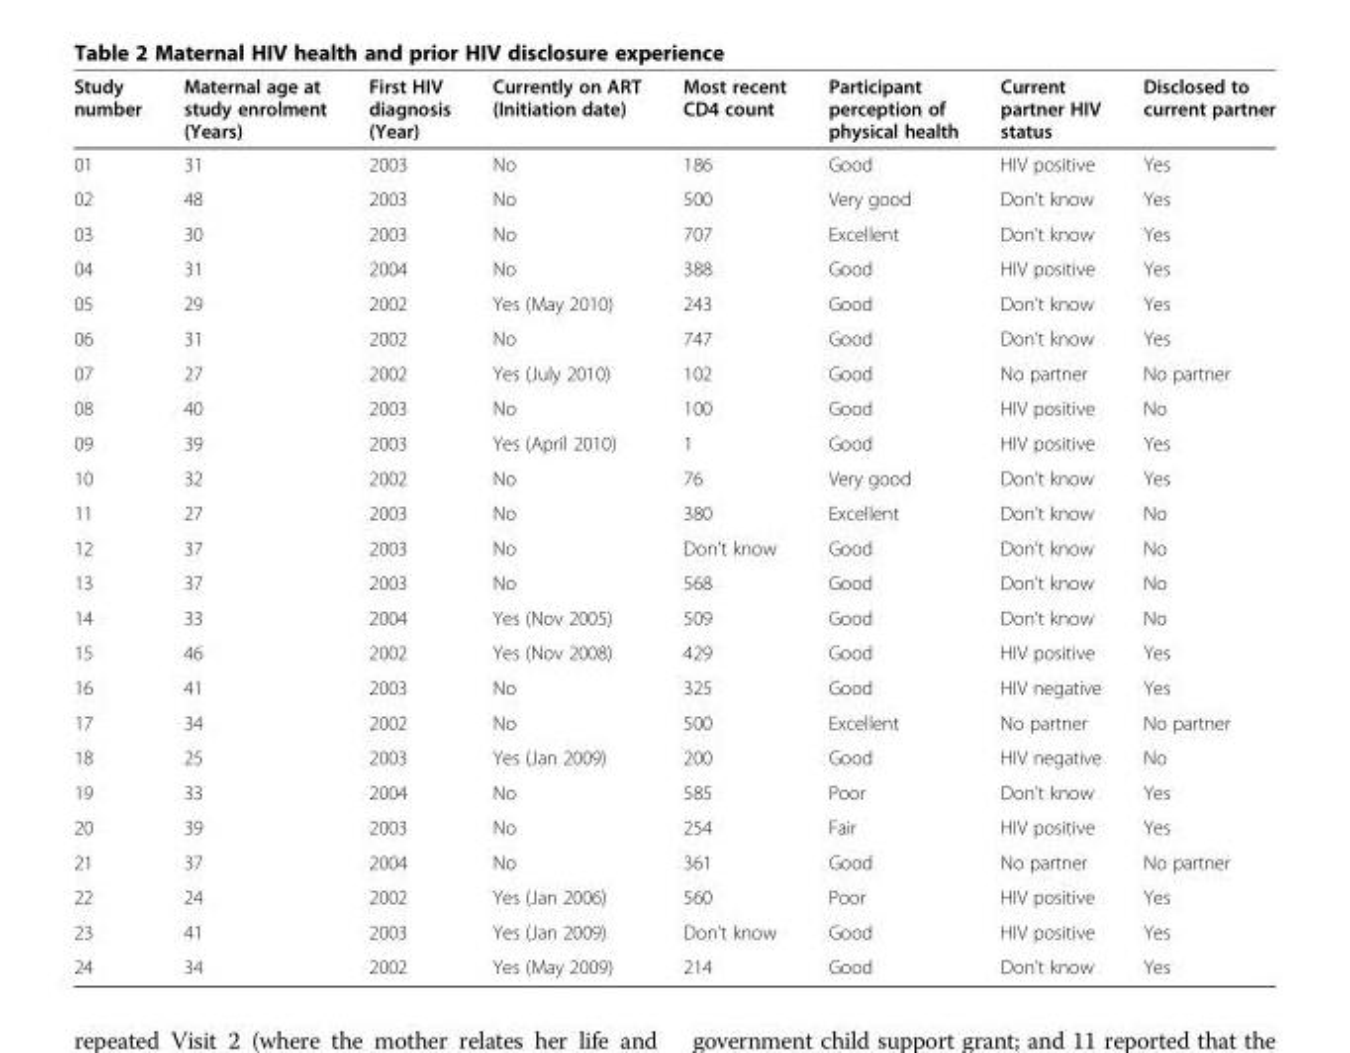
<table><thead><tr><td>Study number</td><td>Maternal age at study enrolment (Years)</td><td>First HIV diagnosis (Year)</td><td>Currently on ART (Initiation date)</td><td>Most recent CD4 count</td><td>Participant perception of physical health</td><td>Current partner HIV status</td><td>Disclosed to current partner</td></tr></thead><tbody><tr><td>01</td><td>31</td><td>2003</td><td>No</td><td>186</td><td>Good</td><td>HIV positive</td><td>Yes</td></tr><tr><td>02</td><td>48</td><td>2003</td><td>No</td><td>500</td><td>Very good</td><td>Don’t know</td><td>Yes</td></tr><tr><td>03</td><td>30</td><td>2003</td><td>No</td><td>707</td><td>Excellent</td><td>Don’t know</td><td>Yes</td></tr><tr><td>04</td><td>31</td><td>2004</td><td>No</td><td>388</td><td>Good</td><td>HIV positive</td><td>Yes</td></tr><tr><td>05</td><td>29</td><td>2002</td><td>Yes (May 2010)</td><td>243</td><td>Good</td><td>Don’t know</td><td>Yes</td></tr><tr><td>06</td><td>31</td><td>2002</td><td>No</td><td>747</td><td>Good</td><td>Don’t know</td><td>Yes</td></tr><tr><td>07</td><td>27</td><td>2002</td><td>Yes (July 2010)</td><td>102</td><td>Good</td><td>No partner</td><td>No partner</td></tr><tr><td>08</td><td>40</td><td>2003</td><td>No</td><td>100</td><td>Good</td><td>HIV positive</td><td>No</td></tr><tr><td>09</td><td>39</td><td>2003</td><td>Yes (April 2010)</td><td>1</td><td>Good</td><td>HIV positive</td><td>Yes</td></tr><tr><td>10</td><td>32</td><td>2002</td><td>No</td><td>76</td><td>Very good</td><td>Don’t know</td><td>Yes</td></tr><tr><td>11</td><td>27</td><td>2003</td><td>No</td><td>380</td><td>Excellent</td><td>Don’t know</td><td>No</td></tr><tr><td>12</td><td>37</td><td>2003</td><td>No</td><td>Don’t know</td><td>Good</td><td>Don’t know</td><td>No</td></tr><tr><td>13</td><td>37</td><td>2003</td><td>No</td><td>568</td><td>Good</td><td>Don’t know</td><td>No</td></tr><tr><td>14</td><td>33</td><td>2004</td><td>Yes (Nov 2005)</td><td>509</td><td>Good</td><td>Don’t know</td><td>No</td></tr><tr><td>15</td><td>46</td><td>2002</td><td>Yes (Nov 2008)</td><td>429</td><td>Good</td><td>HIV positive</td><td>Yes</td></tr><tr><td>16</td><td>41</td><td>2003</td><td>No</td><td>325</td><td>Good</td><td>HIV negative</td><td>Yes</td></tr><tr><td>17</td><td>34</td><td>2002</td><td>No</td><td>500</td><td>Excellent</td><td>No partner</td><td>No partner</td></tr><tr><td>18</td><td>25</td><td>2003</td><td>Yes (Jan 2009)</td><td>200</td><td>Good</td><td>HIV negative</td><td>No</td></tr><tr><td>19</td><td>33</td><td>2004</td><td>No</td><td>585</td><td>Poor</td><td>Don’t know</td><td>Yes</td></tr><tr><td>20</td><td>39</td><td>2003</td><td>No</td><td>254</td><td>Fair</td><td>HIV positive</td><td>Yes</td></tr><tr><td>21</td><td>37</td><td>2004</td><td>No</td><td>361</td><td>Good</td><td>No partner</td><td>No partner</td></tr><tr><td>22</td><td>24</td><td>2002</td><td>Yes (Jan 2006)</td><td>560</td><td>Poor</td><td>HIV positive</td><td>Yes</td></tr><tr><td>23</td><td>41</td><td>2003</td><td>Yes (Jan 2009)</td><td>Don’t know</td><td>Good</td><td>HIV positive</td><td>Yes</td></tr><tr><td>24</td><td>34</td><td>2002</td><td>Yes (May 2009)</td><td>214</td><td>Good</td><td>Don’t know</td><td>Yes</td></tr></tbody></table>